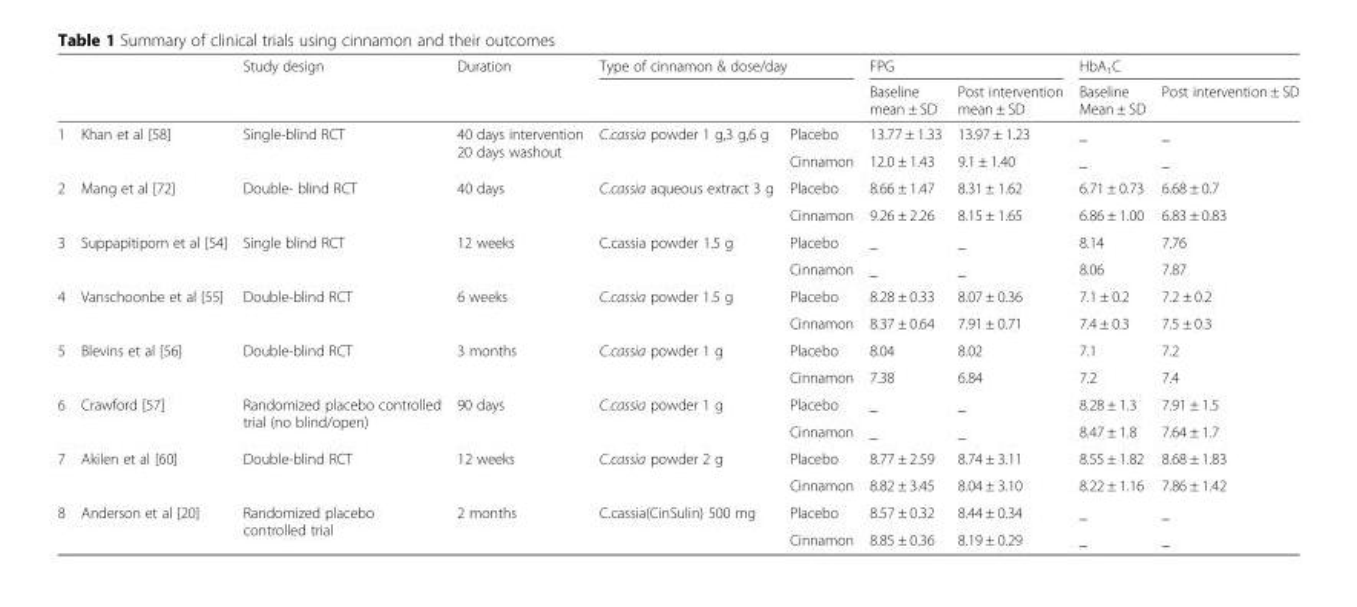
<table><thead><tr><td rowspan="2"></td><td rowspan="2"></td><td rowspan="2">Study design</td><td rowspan="2">Duration</td><td colspan="2">Type of cinnamon &amp; dose/day</td><td colspan="2">FPG</td><td colspan="2">HbA<sub>1</sub>C</td></tr><tr><td></td><td></td><td>Baseline mean ± SD</td><td>Post intervention mean ± SD</td><td>Baseline Mean ± SD</td><td>Post intervention ± SD</td></tr></thead><tbody><tr><td rowspan="2">1</td><td rowspan="2">Khan et al [58]</td><td rowspan="2">Single-blind RCT</td><td rowspan="2">40 days intervention 20 days washout</td><td rowspan="2">C.cassia powder 1 g,3 g,6 g</td><td>Placebo</td><td>13.77 ± 1.33</td><td>13.97 ± 1.23</td><td>_</td><td>_</td></tr><tr><td>Cinnamon</td><td>12.0 ± 1.43</td><td>9.1 ± 1.40</td><td>_</td><td>_</td></tr><tr><td rowspan="2">2</td><td rowspan="2">Mang et al [72]</td><td rowspan="2">Double- blind RCT</td><td rowspan="2">40 days</td><td rowspan="2">C.cassia aqueous extract 3 g</td><td>Placebo</td><td>8.66 ± 1.47</td><td>8.31 ± 1.62</td><td>6.71 ± 0.73</td><td>6.68 ± 0.7</td></tr><tr><td>Cinnamon</td><td>9.26 ± 2.26</td><td>8.15 ± 1.65</td><td>6.86 ± 1.00</td><td>6.83 ± 0.83</td></tr><tr><td rowspan="2">3</td><td rowspan="2">Suppapitiporn et al [54]</td><td rowspan="2">Single blind RCT</td><td rowspan="2">12 weeks</td><td rowspan="2">C.cassia powder 1.5 g</td><td>Placebo</td><td>_</td><td>_</td><td>8.14</td><td>7.76</td></tr><tr><td>Cinnamon</td><td>_</td><td>_</td><td>8.06</td><td>7.87</td></tr><tr><td rowspan="2">4</td><td rowspan="2">Vanschoonbe et al [55]</td><td rowspan="2">Double-blind RCT</td><td rowspan="2">6 weeks</td><td rowspan="2">C.cassia powder 1.5 g</td><td>Placebo</td><td>8.28 ± 0.33</td><td>8.07 ± 0.36</td><td>7.1 ± 0.2</td><td>7.2 ± 0.2</td></tr><tr><td>Cinnamon</td><td>8.37 ± 0.64</td><td>7.91 ± 0.71</td><td>7.4 ± 0.3</td><td>7.5 ± 0.3</td></tr><tr><td rowspan="2">5</td><td rowspan="2">Blevins et al [56]</td><td rowspan="2">Double-blind RCT</td><td rowspan="2">3 months</td><td rowspan="2">C.cassia powder 1 g</td><td>Placebo</td><td>8.04</td><td>8.02</td><td>7.1</td><td>7.2</td></tr><tr><td>Cinnamon</td><td>7.38</td><td>6.84</td><td>7.2</td><td>7.4</td></tr><tr><td rowspan="2">6</td><td rowspan="2">Crawford [57]</td><td rowspan="2">Randomized placebo controlled trial (no blind/open)</td><td rowspan="2">90 days</td><td rowspan="2">C.cassia powder 1 g</td><td>Placebo</td><td>_</td><td>_</td><td>8.28 ± 1.3</td><td>7.91 ± 1.5</td></tr><tr><td>Cinnamon</td><td>_</td><td>_</td><td>8.47 ± 1.8</td><td>7.64 ± 1.7</td></tr><tr><td rowspan="2">7</td><td rowspan="2">Akilen et al [60]</td><td rowspan="2">Double-blind RCT</td><td rowspan="2">12 weeks</td><td rowspan="2">C.cassia powder 2 g</td><td>Placebo</td><td>8.77 ± 2.59</td><td>8.74 ± 3.11</td><td>8.55 ± 1.82</td><td>8.68 ± 1.83</td></tr><tr><td>Cinnamon</td><td>8.82 ± 3.45</td><td>8.04 ± 3.10</td><td>8.22 ± 1.16</td><td>7.86 ± 1.42</td></tr><tr><td rowspan="2">8</td><td rowspan="2">Anderson et al [20]</td><td rowspan="2">Randomized placebo controlled trial</td><td rowspan="2">2 months</td><td rowspan="2">C.cassia(CinSulin) 500 mg</td><td>Placebo</td><td>8.57 ± 0.32</td><td>8.44 ± 0.34</td><td>_</td><td>_</td></tr><tr><td>Cinnamon</td><td>8.85 ± 0.36</td><td>8.19 ± 0.29</td><td>_</td><td>_</td></tr></tbody></table>